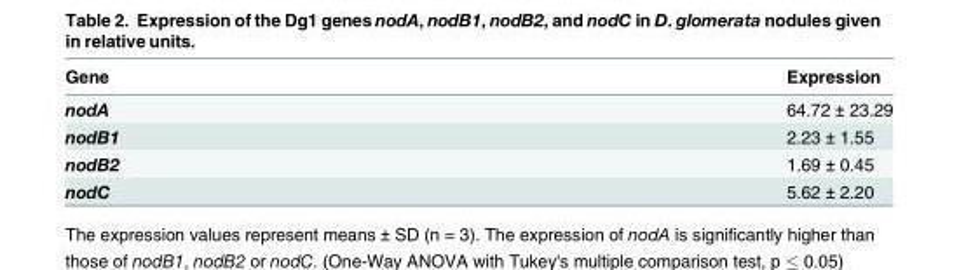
<table><thead><tr><td>Gene</td><td>Expression</td></tr></thead><tbody><tr><td>nodA</td><td>64.72 ± 23.29</td></tr><tr><td>nodB1</td><td>2.23 ± 1.55</td></tr><tr><td>nodB2</td><td>1.69 ± 0.45</td></tr><tr><td>nodC</td><td>5.62 ± 2.20</td></tr></tbody></table>